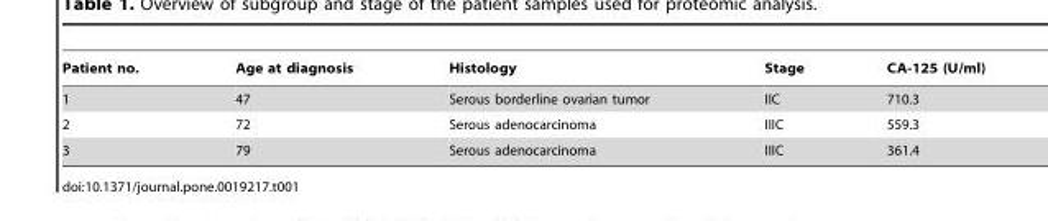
<table><thead><tr><td>Patient no.</td><td>Age at diagnosis</td><td>Histology</td><td>Stage</td><td>CA-125 (U/ml)</td></tr></thead><tbody><tr><td>1</td><td>47</td><td>Serous borderline ovarian tumor</td><td>IIC</td><td>710.3</td></tr><tr><td>2</td><td>72</td><td>Serous adenocarcinoma</td><td>IIIC</td><td>559.3</td></tr><tr><td>3</td><td>79</td><td>Serous adenocarcinoma</td><td>IIIC</td><td>361.4</td></tr></tbody></table>